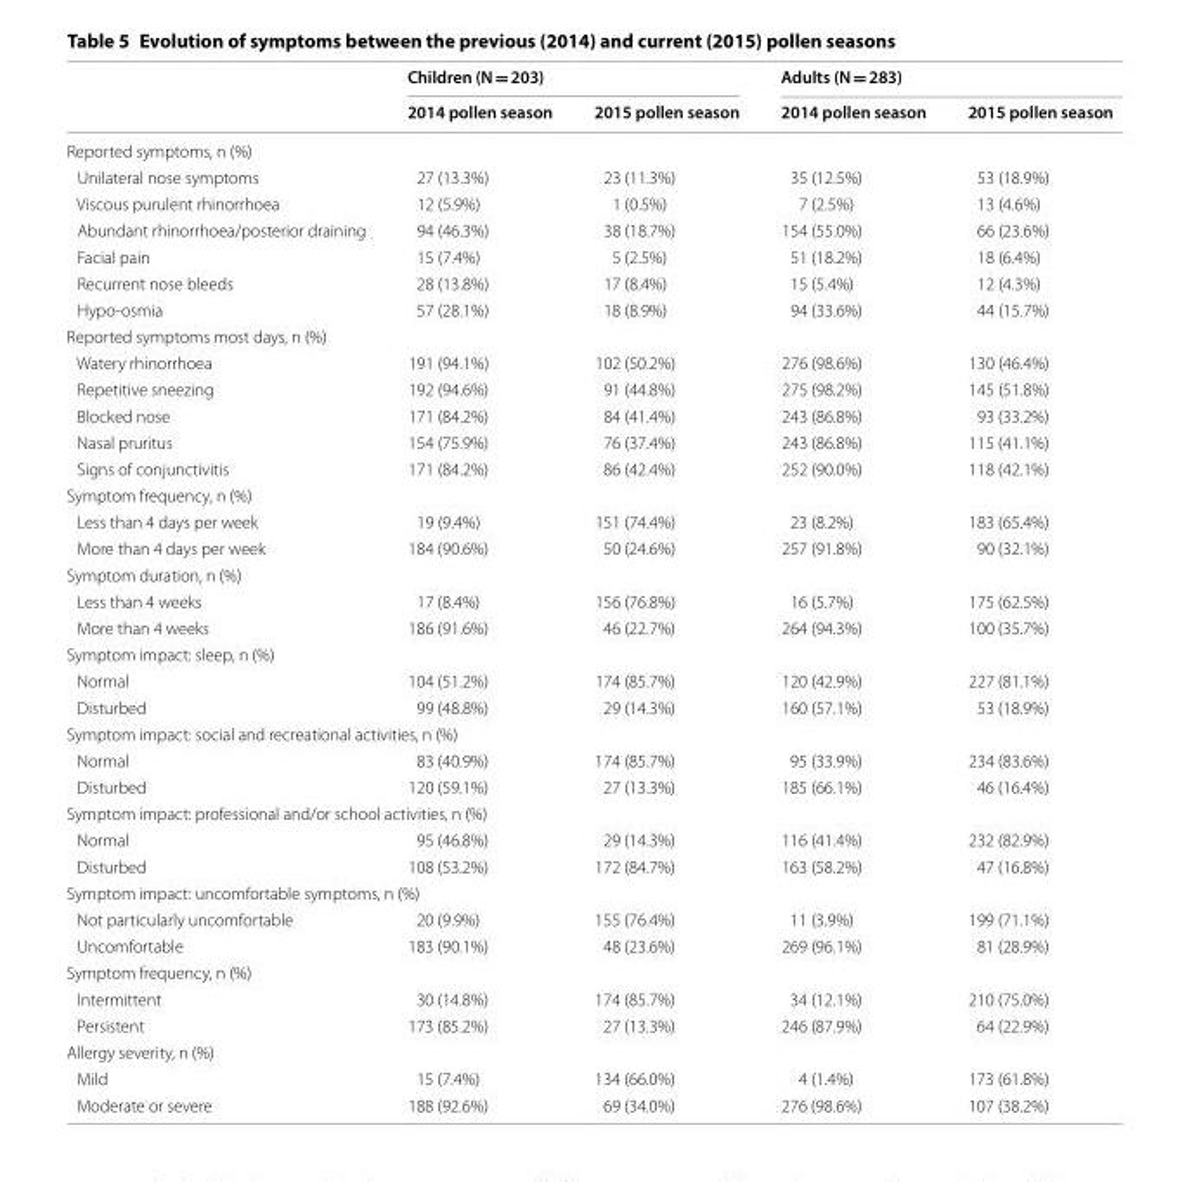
<table><thead><tr><td rowspan="2"></td><td colspan="2">Children (N = 203)</td><td colspan="2">Adults (N = 283)</td></tr><tr><td>2014 pollen season</td><td>2015 pollen season</td><td>2014 pollen season</td><td>2015 pollen season</td></tr></thead><tbody><tr><td colspan="5">Reported symptoms, n (%)</td></tr><tr><td>Unilateral nose symptoms</td><td>27 (13.3%)</td><td>23 (11.3%)</td><td>35 (12.5%)</td><td>53 (18.9%)</td></tr><tr><td>Viscous purulent rhinorrhoea</td><td>12 (5.9%)</td><td>1 (0.5%)</td><td>7 (2.5%)</td><td>13 (4.6%)</td></tr><tr><td>Abundant rhinorrhoea/posterior draining</td><td>94 (46.3%)</td><td>38 (18.7%)</td><td>154 (55.0%)</td><td>66 (23.6%)</td></tr><tr><td>Facial pain</td><td>15 (7.4%)</td><td>5 (2.5%)</td><td>51 (18.2%)</td><td>18 (6.4%)</td></tr><tr><td>Recurrent nose bleeds</td><td>28 (13.8%)</td><td>17 (8.4%)</td><td>15 (5.4%)</td><td>12 (4.3%)</td></tr><tr><td>Hypo‑osmia</td><td>57 (28.1%)</td><td>18 (8.9%)</td><td>94 (33.6%)</td><td>44 (15.7%)</td></tr><tr><td colspan="5">Reported symptoms most days, n (%)</td></tr><tr><td>Watery rhinorrhoea</td><td>191 (94.1%)</td><td>102 (50.2%)</td><td>276 (98.6%)</td><td>130 (46.4%)</td></tr><tr><td>Repetitive sneezing</td><td>192 (94.6%)</td><td>91 (44.8%)</td><td>275 (98.2%)</td><td>145 (51.8%)</td></tr><tr><td>Blocked nose</td><td>171 (84.2%)</td><td>84 (41.4%)</td><td>243 (86.8%)</td><td>93 (33.2%)</td></tr><tr><td>Nasal pruritus</td><td>154 (75.9%)</td><td>76 (37.4%)</td><td>243 (86.8%)</td><td>115 (41.1%)</td></tr><tr><td>Signs of conjunctivitis</td><td>171 (84.2%)</td><td>86 (42.4%)</td><td>252 (90.0%)</td><td>118 (42.1%)</td></tr><tr><td colspan="5">Symptom frequency, n (%)</td></tr><tr><td>Less than 4 days per week</td><td>19 (9.4%)</td><td>151 (74.4%)</td><td>23 (8.2%)</td><td>183 (65.4%)</td></tr><tr><td>More than 4 days per week</td><td>184 (90.6%)</td><td>50 (24.6%)</td><td>257 (91.8%)</td><td>90 (32.1%)</td></tr><tr><td colspan="5">Symptom duration, n (%)</td></tr><tr><td>Less than 4 weeks</td><td>17 (8.4%)</td><td>156 (76.8%)</td><td>16 (5.7%)</td><td>175 (62.5%)</td></tr><tr><td>More than 4 weeks</td><td>186 (91.6%)</td><td>46 (22.7%)</td><td>264 (94.3%)</td><td>100 (35.7%)</td></tr><tr><td colspan="5">Symptom impact: sleep, n (%)</td></tr><tr><td>Normal</td><td>104 (51.2%)</td><td>174 (85.7%)</td><td>120 (42.9%)</td><td>227 (81.1%)</td></tr><tr><td>Disturbed</td><td>99 (48.8%)</td><td>29 (14.3%)</td><td>160 (57.1%)</td><td>53 (18.9%)</td></tr><tr><td colspan="5">Symptom impact: social and recreational activities, n (%)</td></tr><tr><td>Normal</td><td>83 (40.9%)</td><td>174 (85.7%)</td><td>95 (33.9%)</td><td>234 (83.6%)</td></tr><tr><td>Disturbed</td><td>120 (59.1%)</td><td>27 (13.3%)</td><td>185 (66.1%)</td><td>46 (16.4%)</td></tr><tr><td colspan="5">Symptom impact: professional and/or school activities, n (%)</td></tr><tr><td>Normal</td><td>95 (46.8%)</td><td>29 (14.3%)</td><td>116 (41.4%)</td><td>232 (82.9%)</td></tr><tr><td>Disturbed</td><td>108 (53.2%)</td><td>172 (84.7%)</td><td>163 (58.2%)</td><td>47 (16.8%)</td></tr><tr><td colspan="5">Symptom impact: uncomfortable symptoms, n (%)</td></tr><tr><td>Not particularly uncomfortable</td><td>20 (9.9%)</td><td>155 (76.4%)</td><td>11 (3.9%)</td><td>199 (71.1%)</td></tr><tr><td>Uncomfortable</td><td>183 (90.1%)</td><td>48 (23.6%)</td><td>269 (96.1%)</td><td>81 (28.9%)</td></tr><tr><td colspan="5">Symptom frequency, n (%)</td></tr><tr><td>Intermittent</td><td>30 (14.8%)</td><td>174 (85.7%)</td><td>34 (12.1%)</td><td>210 (75.0%)</td></tr><tr><td>Persistent</td><td>173 (85.2%)</td><td>27 (13.3%)</td><td>246 (87.9%)</td><td>64 (22.9%)</td></tr><tr><td colspan="5">Allergy severity, n (%)</td></tr><tr><td>Mild</td><td>15 (7.4%)</td><td>134 (66.0%)</td><td>4 (1.4%)</td><td>173 (61.8%)</td></tr><tr><td>Moderate or severe</td><td>188 (92.6%)</td><td>69 (34.0%)</td><td>276 (98.6%)</td><td>107 (38.2%)</td></tr></tbody></table>